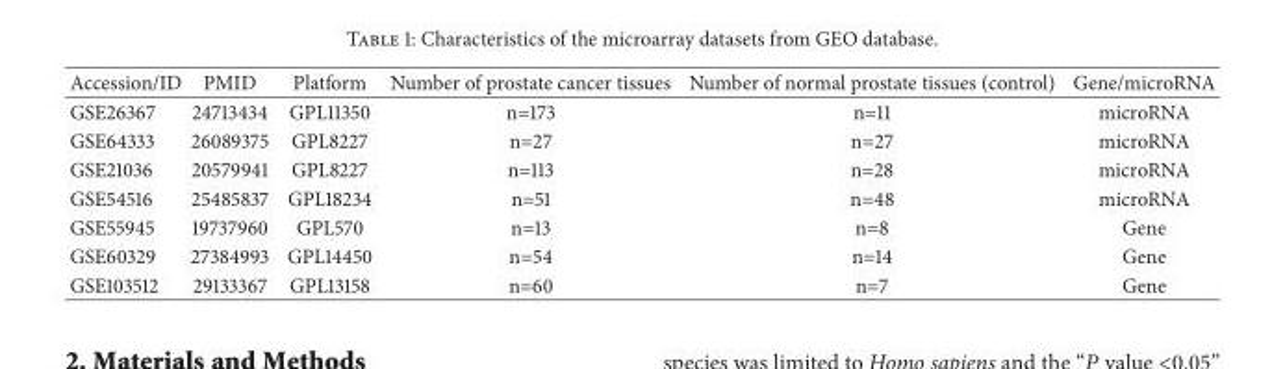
<table><thead><tr><td>Accession/ID</td><td>PMID</td><td>Platform</td><td>Number of prostate cancer tissues</td><td>Number of normal prostate tissues (control)</td><td>Gene/microRNA</td></tr></thead><tbody><tr><td>GSE26367</td><td>24713434</td><td>GPL11350</td><td>n=173</td><td>n=11</td><td>microRNA</td></tr><tr><td>GSE64333</td><td>26089375</td><td>GPL8227</td><td>n=27</td><td>n=27</td><td>microRNA</td></tr><tr><td>GSE21036</td><td>20579941</td><td>GPL8227</td><td>n=113</td><td>n=28</td><td>microRNA</td></tr><tr><td>GSE54516</td><td>25485837</td><td>GPL18234</td><td>n=51</td><td>n=48</td><td>microRNA</td></tr><tr><td>GSE55945</td><td>19737960</td><td>GPL570</td><td>n=13</td><td>n=8</td><td>Gene</td></tr><tr><td>GSE60329</td><td>27384993</td><td>GPL14450</td><td>n=54</td><td>n=14</td><td>Gene</td></tr><tr><td>GSE103512</td><td>29133367</td><td>GPL13158</td><td>n=60</td><td>n=7</td><td>Gene</td></tr></tbody></table>